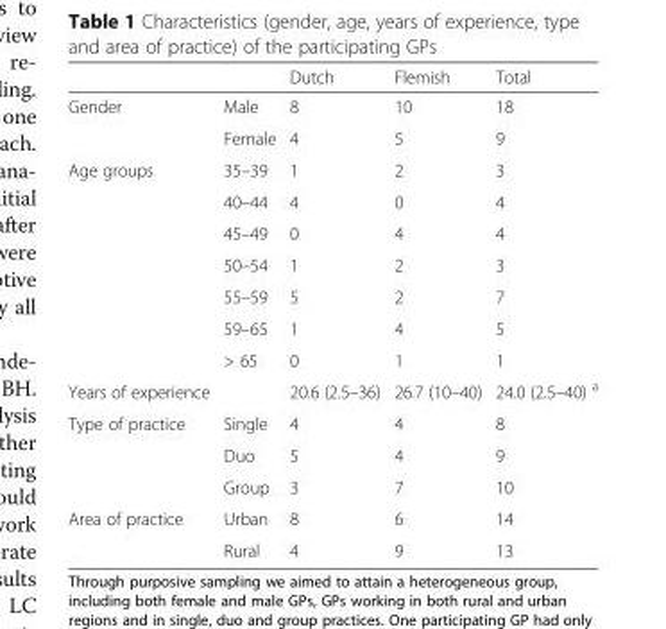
<table><thead><tr><td></td><td></td><td>Dutch</td><td>Flemish</td><td>Total</td></tr></thead><tbody><tr><td rowspan="2">Gender</td><td>Male</td><td>8</td><td>10</td><td>18</td></tr><tr><td>Female</td><td>4</td><td>5</td><td>9</td></tr><tr><td rowspan="7">Age groups</td><td>35–39</td><td>1</td><td>2</td><td>3</td></tr><tr><td>40–44</td><td>4</td><td>0</td><td>4</td></tr><tr><td>45–49</td><td>0</td><td>4</td><td>4</td></tr><tr><td>50–54</td><td>1</td><td>2</td><td>3</td></tr><tr><td>55–59</td><td>5</td><td>2</td><td>7</td></tr><tr><td>59–65</td><td>1</td><td>4</td><td>5</td></tr><tr><td>&gt; 65</td><td>0</td><td>1</td><td>1</td></tr><tr><td>Years of experience</td><td></td><td>20.6 (2.5–36)</td><td>26.7 (10–40)</td><td>24.0 (2.5–40) <sup>a</sup></td></tr><tr><td rowspan="3">Type of practice</td><td>Single</td><td>4</td><td>4</td><td>8</td></tr><tr><td>Duo</td><td>5</td><td>4</td><td>9</td></tr><tr><td>Group</td><td>3</td><td>7</td><td>10</td></tr><tr><td rowspan="2">Area of practice</td><td>Urban</td><td>8</td><td>6</td><td>14</td></tr><tr><td>Rural</td><td>4</td><td>9</td><td>13</td></tr></tbody></table>